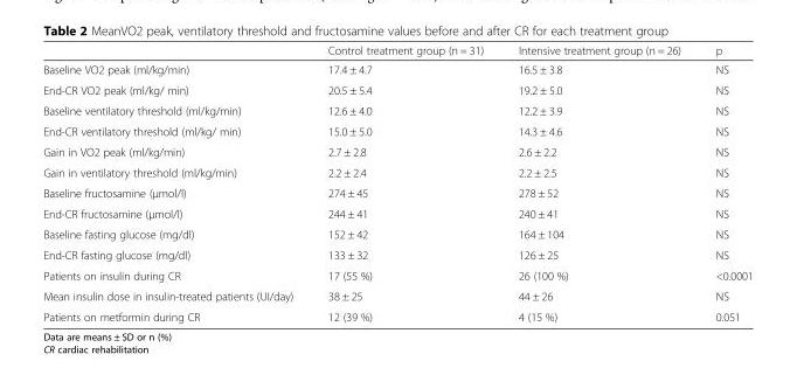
<table><thead><tr><td></td><td>Control treatment group (n = 31)</td><td>Intensive treatment group (n = 26)</td><td>p</td></tr></thead><tbody><tr><td>Baseline VO2 peak (ml/kg/min)</td><td>17.4 ± 4.7</td><td>16.5 ± 3.8</td><td>NS</td></tr><tr><td>End-CR VO2 peak (ml/kg/ min)</td><td>20.5 ± 5.4</td><td>19.2 ± 5.0</td><td>NS</td></tr><tr><td>Baseline ventilatory threshold (ml/kg/min)</td><td>12.6 ± 4.0</td><td>12.2 ± 3.9</td><td>NS</td></tr><tr><td>End-CR ventilatory threshold (ml/kg/ min)</td><td>15.0 ± 5.0</td><td>14.3 ± 4.6</td><td>NS</td></tr><tr><td>Gain in VO2 peak (ml/kg/min)</td><td>2.7 ± 2.8</td><td>2.6 ± 2.2</td><td>NS</td></tr><tr><td>Gain in ventilatory threshold (ml/kg/min)</td><td>2.2 ± 2.4</td><td>2.2 ± 2.5</td><td>NS</td></tr><tr><td>Baseline fructosamine (μmol/l)</td><td>274 ± 45</td><td>278 ± 52</td><td>NS</td></tr><tr><td>End-CR fructosamine (μmol/l)</td><td>244 ± 41</td><td>240 ± 41</td><td>NS</td></tr><tr><td>Baseline fasting glucose (mg/dl)</td><td>152 ± 42</td><td>164 ± 104</td><td>NS</td></tr><tr><td>End-CR fasting glucose (mg/dl)</td><td>133 ± 32</td><td>126 ± 25</td><td>NS</td></tr><tr><td>Patients on insulin during CR</td><td>17 (55 %)</td><td>26 (100 %)</td><td>&lt;0.0001</td></tr><tr><td>Mean insulin dose in insulin-treated patients (UI/day)</td><td>38 ± 25</td><td>44 ± 26</td><td>NS</td></tr><tr><td>Patients on metformin during CR</td><td>12 (39 %)</td><td>4 (15 %)</td><td>0.051</td></tr></tbody></table>